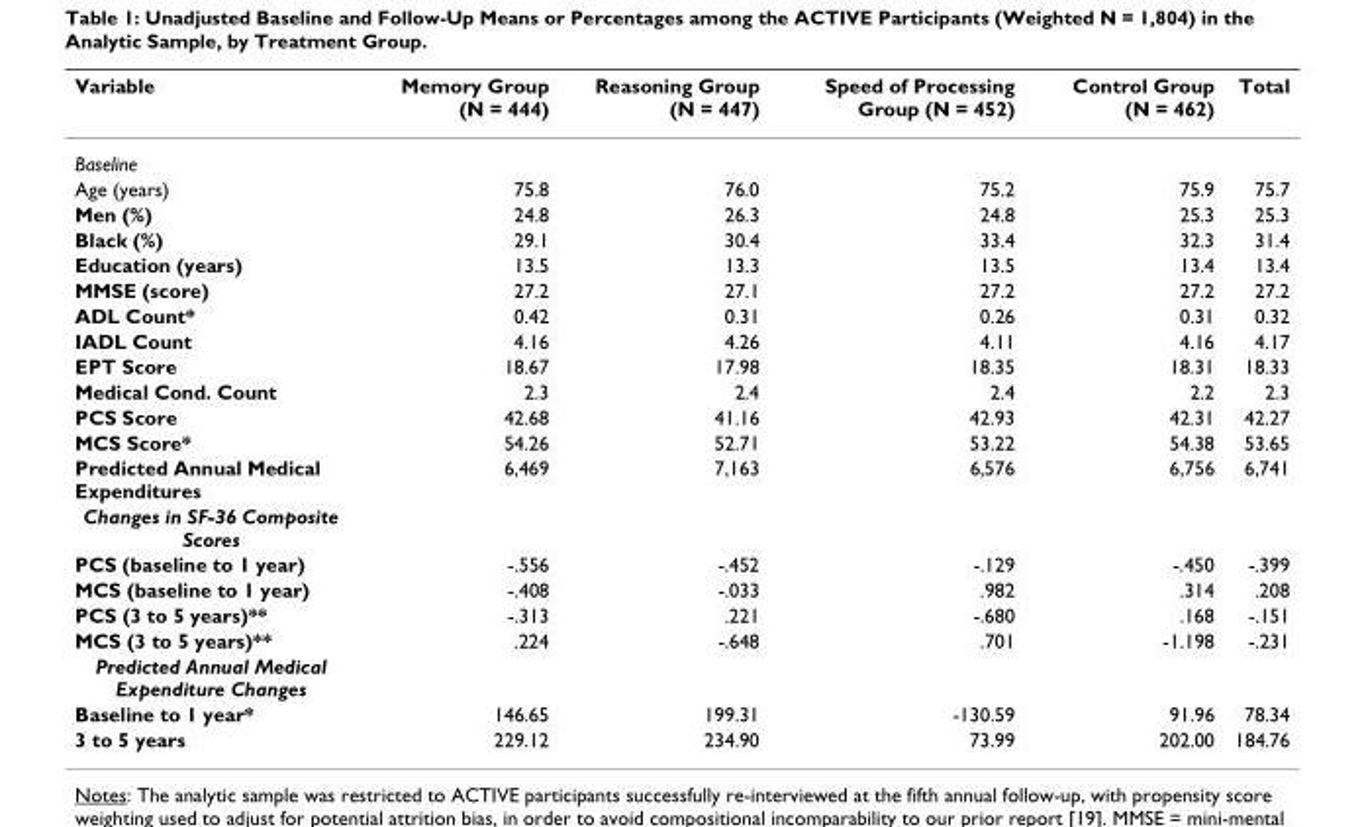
<table><thead><tr><td>Variable</td><td>Memory Group (N = 444)</td><td>Reasoning Group (N = 447)</td><td>Speed of Processing Group (N = 452)</td><td>Control Group (N = 462)</td><td>Total</td></tr></thead><tbody><tr><td colspan="6">Baseline</td></tr><tr><td>Age (years)</td><td>75.8</td><td>76.0</td><td>75.2</td><td>75.9</td><td>75.7</td></tr><tr><td>Men (%)</td><td>24.8</td><td>26.3</td><td>24.8</td><td>25.3</td><td>25.3</td></tr><tr><td>Black (%)</td><td>29.1</td><td>30.4</td><td>33.4</td><td>32.3</td><td>31.4</td></tr><tr><td>Education (years)</td><td>13.5</td><td>13.3</td><td>13.5</td><td>13.4</td><td>13.4</td></tr><tr><td>MMSE (score)</td><td>27.2</td><td>27.1</td><td>27.2</td><td>27.2</td><td>27.2</td></tr><tr><td>ADL Count*</td><td>0.42</td><td>0.31</td><td>0.26</td><td>0.31</td><td>0.32</td></tr><tr><td>IADL Count</td><td>4.16</td><td>4.26</td><td>4.11</td><td>4.16</td><td>4.17</td></tr><tr><td>EPT Score</td><td>18.67</td><td>17.98</td><td>18.35</td><td>18.31</td><td>18.33</td></tr><tr><td>Medical Cond. Count</td><td>2.3</td><td>2.4</td><td>2.4</td><td>2.2</td><td>2.3</td></tr><tr><td>PCS Score</td><td>42.68</td><td>41.16</td><td>42.93</td><td>42.31</td><td>42.27</td></tr><tr><td>MCS Score*</td><td>54.26</td><td>52.71</td><td>53.22</td><td>54.38</td><td>53.65</td></tr><tr><td>Predicted Annual Medical Expenditures</td><td>6,469</td><td>7,163</td><td>6,576</td><td>6,756</td><td>6,741</td></tr><tr><td colspan="6">Changes in SF-36 Composite Scores</td></tr><tr><td>PCS (baseline to 1 year)</td><td>-.556</td><td>-.452</td><td>-.129</td><td>-.450</td><td>-.399</td></tr><tr><td>MCS (baseline to 1 year)</td><td>-.408</td><td>-.033</td><td>.982</td><td>.314</td><td>.208</td></tr><tr><td>PCS (3 to 5 years)**</td><td>-.313</td><td>.221</td><td>-.680</td><td>.168</td><td>-.151</td></tr><tr><td>MCS (3 to 5 years)**</td><td>.224</td><td>-.648</td><td>.701</td><td>-1.198</td><td>-.231</td></tr><tr><td colspan="6">Predicted Annual Medical Expenditure Changes</td></tr><tr><td>Baseline to 1 year*</td><td>146.65</td><td>199.31</td><td>-130.59</td><td>91.96</td><td>78.34</td></tr><tr><td>3 to 5 years</td><td>229.12</td><td>234.90</td><td>73.99</td><td>202.00</td><td>184.76</td></tr></tbody></table>